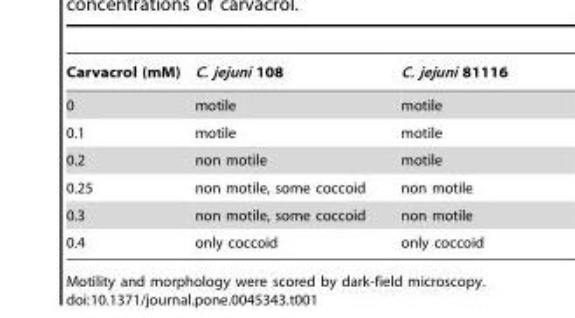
<table><thead><tr><td>Carvacrol (mM)</td><td>C. jejuni 108</td><td>C. jejuni 81116</td></tr></thead><tbody><tr><td>0</td><td>motile</td><td>motile</td></tr><tr><td>0.1</td><td>motile</td><td>motile</td></tr><tr><td>0.2</td><td>non motile</td><td>motile</td></tr><tr><td>0.25</td><td>non motile, some coccoid</td><td>non motile</td></tr><tr><td>0.3</td><td>non motile, some coccoid</td><td>non motile</td></tr><tr><td>0.4</td><td>only coccoid</td><td>only coccoid</td></tr></tbody></table>